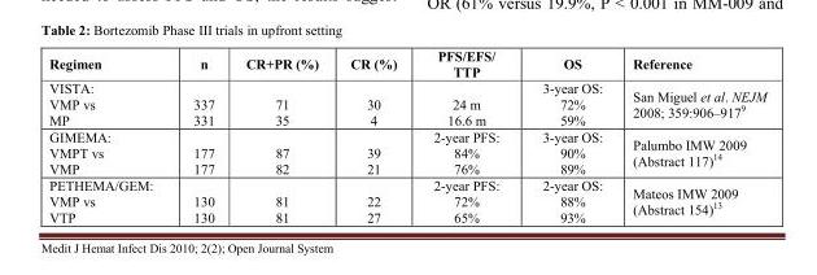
<table><thead><tr><td>Regimen</td><td>n</td><td>CR+PR (%)</td><td>CR (%)</td><td>PFS/EFS/ TTP</td><td>OS</td><td>Reference</td></tr></thead><tbody><tr><td>VISTA: VMP vs MP</td><td>337 331</td><td>71 35</td><td>30 4</td><td>24 m 16.6 m</td><td>3-year OS: 72% 59%</td><td>San Miguel et al. NEJM 2008; 359:906–917<sup>9</sup></td></tr><tr><td>GIMEMA: VMPT vs VMP</td><td>177 177</td><td>87 82</td><td>39 21</td><td>2-year PFS: 84% 76%</td><td>3-year OS: 90% 89%</td><td>Palumbo IMW 2009 (Abstract 117)<sup>14</sup></td></tr><tr><td>PETHEMA/GEM: VMP vs VTP</td><td>130 130</td><td>81 81</td><td>22 27</td><td>2-year PFS: 72% 65%</td><td>2-year OS: 88% 93%</td><td>Mateos IMW 2009 (Abstract 154)<sup>13</sup></td></tr></tbody></table>